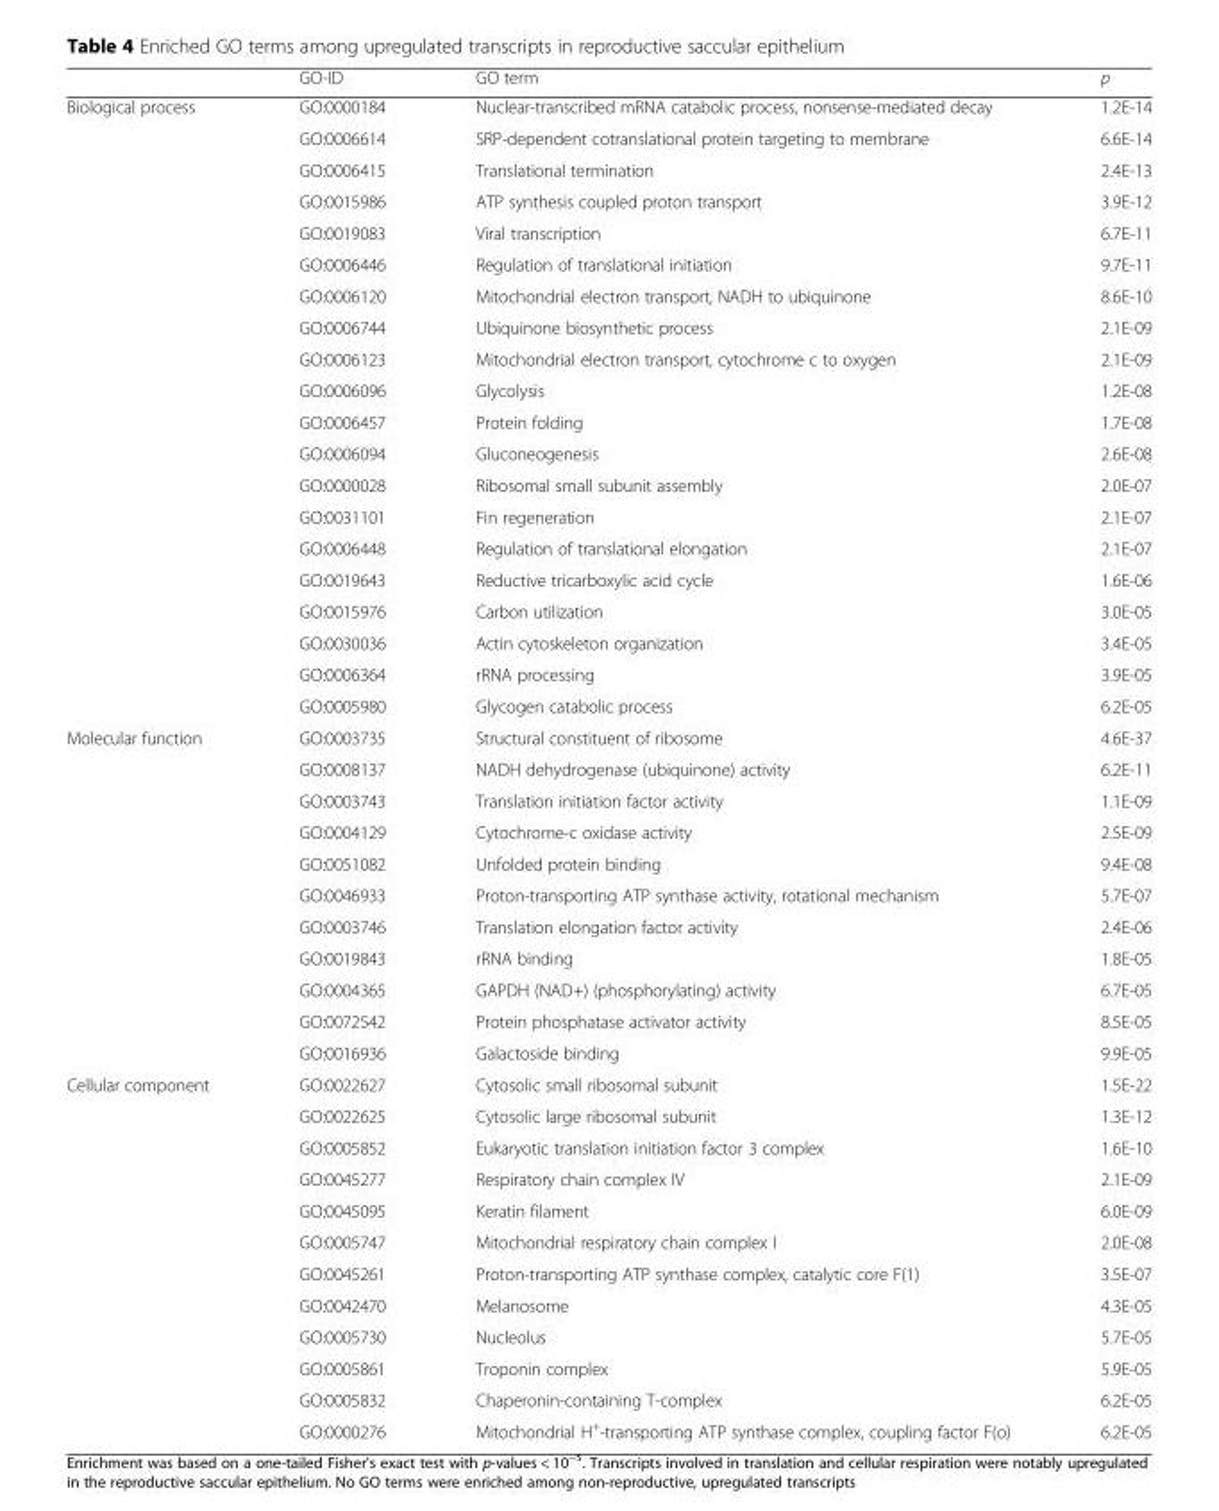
<table><thead><tr><td></td><td>GO-ID</td><td>GO term</td><td>p</td></tr></thead><tbody><tr><td rowspan="20">Biological process</td><td>GO:0000184</td><td>Nuclear-transcribed mRNA catabolic process, nonsense-mediated decay</td><td>1.2E-14</td></tr><tr><td>GO:0006614</td><td>SRP-dependent cotranslational protein targeting to membrane</td><td>6.6E-14</td></tr><tr><td>GO:0006415</td><td>Translational termination</td><td>2.4E-13</td></tr><tr><td>GO:0015986</td><td>ATP synthesis coupled proton transport</td><td>3.9E-12</td></tr><tr><td>GO:0019083</td><td>Viral transcription</td><td>6.7E-11</td></tr><tr><td>GO:0006446</td><td>Regulation of translational initiation</td><td>9.7E-11</td></tr><tr><td>GO:0006120</td><td>Mitochondrial electron transport, NADH to ubiquinone</td><td>8.6E-10</td></tr><tr><td>GO:0006744</td><td>Ubiquinone biosynthetic process</td><td>2.1E-09</td></tr><tr><td>GO:0006123</td><td>Mitochondrial electron transport, cytochrome c to oxygen</td><td>2.1E-09</td></tr><tr><td>GO:0006096</td><td>Glycolysis</td><td>1.2E-08</td></tr><tr><td>GO:0006457</td><td>Protein folding</td><td>1.7E-08</td></tr><tr><td>GO:0006094</td><td>Gluconeogenesis</td><td>2.6E-08</td></tr><tr><td>GO:0000028</td><td>Ribosomal small subunit assembly</td><td>2.0E-07</td></tr><tr><td>GO:0031101</td><td>Fin regeneration</td><td>2.1E-07</td></tr><tr><td>GO:0006448</td><td>Regulation of translational elongation</td><td>2.1E-07</td></tr><tr><td>GO:0019643</td><td>Reductive tricarboxylic acid cycle</td><td>1.6E-06</td></tr><tr><td>GO:0015976</td><td>Carbon utilization</td><td>3.0E-05</td></tr><tr><td>GO:0030036</td><td>Actin cytoskeleton organization</td><td>3.4E-05</td></tr><tr><td>GO:0006364</td><td>rRNA processing</td><td>3.9E-05</td></tr><tr><td>GO:0005980</td><td>Glycogen catabolic process</td><td>6.2E-05</td></tr><tr><td rowspan="11">Molecular function</td><td>GO:0003735</td><td>Structural constituent of ribosome</td><td>4.6E-37</td></tr><tr><td>GO:0008137</td><td>NADH dehydrogenase (ubiquinone) activity</td><td>6.2E-11</td></tr><tr><td>GO:0003743</td><td>Translation initiation factor activity</td><td>1.1E-09</td></tr><tr><td>GO:0004129</td><td>Cytochrome-c oxidase activity</td><td>2.5E-09</td></tr><tr><td>GO:0051082</td><td>Unfolded protein binding</td><td>9.4E-08</td></tr><tr><td>GO:0046933</td><td>Proton-transporting ATP synthase activity, rotational mechanism</td><td>5.7E-07</td></tr><tr><td>GO:0003746</td><td>Translation elongation factor activity</td><td>2.4E-06</td></tr><tr><td>GO:0019843</td><td>rRNA binding</td><td>1.8E-05</td></tr><tr><td>GO:0004365</td><td>GAPDH (NAD+) (phosphorylating) activity</td><td>6.7E-05</td></tr><tr><td>GO:0072542</td><td>Protein phosphatase activator activity</td><td>8.5E-05</td></tr><tr><td>GO:0016936</td><td>Galactoside binding</td><td>9.9E-05</td></tr><tr><td rowspan="12">Cellular component</td><td>GO:0022627</td><td>Cytosolic small ribosomal subunit</td><td>1.5E-22</td></tr><tr><td>GO:0022625</td><td>Cytosolic large ribosomal subunit</td><td>1.3E-12</td></tr><tr><td>GO:0005852</td><td>Eukaryotic translation initiation factor 3 complex</td><td>1.6E-10</td></tr><tr><td>GO:0045277</td><td>Respiratory chain complex IV</td><td>2.1E-09</td></tr><tr><td>GO:0045095</td><td>Keratin filament</td><td>6.0E-09</td></tr><tr><td>GO:0005747</td><td>Mitochondrial respiratory chain complex I</td><td>2.0E-08</td></tr><tr><td>GO:0045261</td><td>Proton-transporting ATP synthase complex, catalytic core F(1)</td><td>3.5E-07</td></tr><tr><td>GO:0042470</td><td>Melanosome</td><td>4.3E-05</td></tr><tr><td>GO:0005730</td><td>Nucleolus</td><td>5.7E-05</td></tr><tr><td>GO:0005861</td><td>Troponin complex</td><td>5.9E-05</td></tr><tr><td>GO:0005832</td><td>Chaperonin-containing T-complex</td><td>6.2E-05</td></tr><tr><td>GO:0000276</td><td>Mitochondrial H<sup>+</sup>-transporting ATP synthase complex, coupling factor F(o)</td><td>6.2E-05</td></tr></tbody></table>